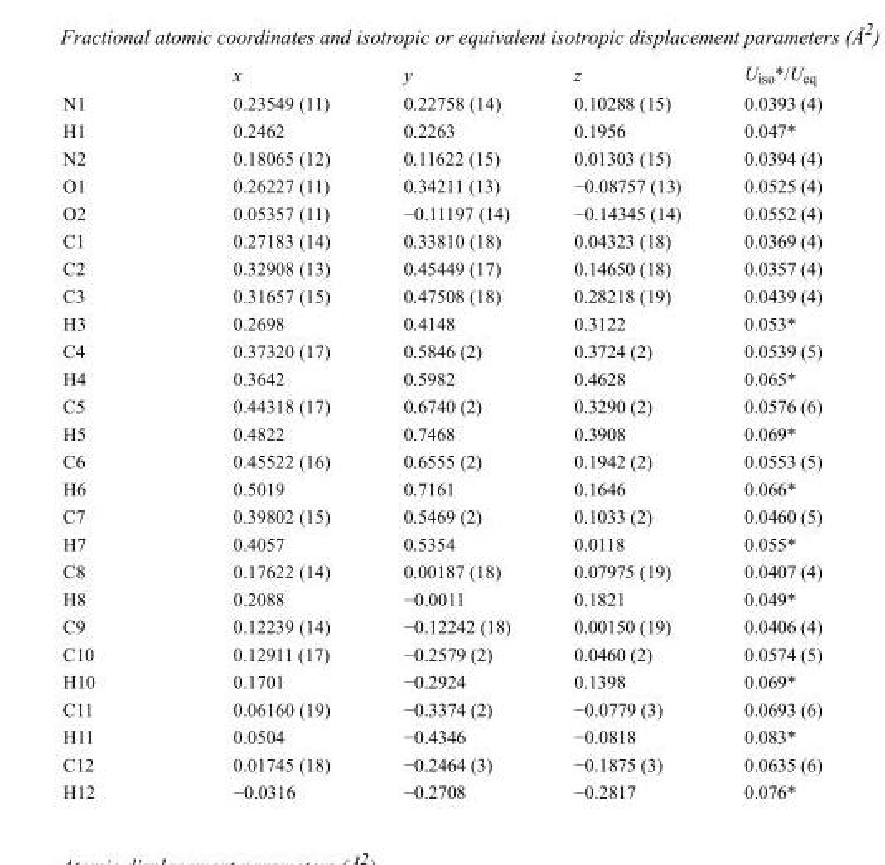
<table><thead><tr><td></td><td>x</td><td>y</td><td>z</td><td>U<sub>iso</sub>*/U<sub>eq</sub></td></tr></thead><tbody><tr><td>N1</td><td>0.23549 (11)</td><td>0.22758 (14)</td><td>0.10288 (15)</td><td>0.0393 (4)</td></tr><tr><td>H1</td><td>0.2462</td><td>0.2263</td><td>0.1956</td><td>0.047*</td></tr><tr><td>N2</td><td>0.18065 (12)</td><td>0.11622 (15)</td><td>0.01303 (15)</td><td>0.0394 (4)</td></tr><tr><td>O1</td><td>0.26227 (11)</td><td>0.34211 (13)</td><td>−0.08757 (13)</td><td>0.0525 (4)</td></tr><tr><td>O2</td><td>0.05357 (11)</td><td>−0.11197 (14)</td><td>−0.14345 (14)</td><td>0.0552 (4)</td></tr><tr><td>C1</td><td>0.27183 (14)</td><td>0.33810 (18)</td><td>0.04323 (18)</td><td>0.0369 (4)</td></tr><tr><td>C2</td><td>0.32908 (13)</td><td>0.45449 (17)</td><td>0.14650 (18)</td><td>0.0357 (4)</td></tr><tr><td>C3</td><td>0.31657 (15)</td><td>0.47508 (18)</td><td>0.28218 (19)</td><td>0.0439 (4)</td></tr><tr><td>H3</td><td>0.2698</td><td>0.4148</td><td>0.3122</td><td>0.053*</td></tr><tr><td>C4</td><td>0.37320 (17)</td><td>0.5846 (2)</td><td>0.3724 (2)</td><td>0.0539 (5)</td></tr><tr><td>H4</td><td>0.3642</td><td>0.5982</td><td>0.4628</td><td>0.065*</td></tr><tr><td>C5</td><td>0.44318 (17)</td><td>0.6740 (2)</td><td>0.3290 (2)</td><td>0.0576 (6)</td></tr><tr><td>H5</td><td>0.4822</td><td>0.7468</td><td>0.3908</td><td>0.069*</td></tr><tr><td>C6</td><td>0.45522 (16)</td><td>0.6555 (2)</td><td>0.1942 (2)</td><td>0.0553 (5)</td></tr><tr><td>H6</td><td>0.5019</td><td>0.7161</td><td>0.1646</td><td>0.066*</td></tr><tr><td>C7</td><td>0.39802 (15)</td><td>0.5469 (2)</td><td>0.1033 (2)</td><td>0.0460 (5)</td></tr><tr><td>H7</td><td>0.4057</td><td>0.5354</td><td>0.0118</td><td>0.055*</td></tr><tr><td>C8</td><td>0.17622 (14)</td><td>0.00187 (18)</td><td>0.07975 (19)</td><td>0.0407 (4)</td></tr><tr><td>H8</td><td>0.2088</td><td>−0.0011</td><td>0.1821</td><td>0.049*</td></tr><tr><td>C9</td><td>0.12239 (14)</td><td>−0.12242 (18)</td><td>0.00150 (19)</td><td>0.0406 (4)</td></tr><tr><td>C10</td><td>0.12911 (17)</td><td>−0.2579 (2)</td><td>0.0460 (2)</td><td>0.0574 (5)</td></tr><tr><td>H10</td><td>0.1701</td><td>−0.2924</td><td>0.1398</td><td>0.069*</td></tr><tr><td>C11</td><td>0.06160 (19)</td><td>−0.3374 (2)</td><td>−0.0779 (3)</td><td>0.0693 (6)</td></tr><tr><td>H11</td><td>0.0504</td><td>−0.4346</td><td>−0.0818</td><td>0.083*</td></tr><tr><td>C12</td><td>0.01745 (18)</td><td>−0.2464 (3)</td><td>−0.1875 (3)</td><td>0.0635 (6)</td></tr><tr><td>H12</td><td>−0.0316</td><td>−0.2708</td><td>−0.2817</td><td>0.076*</td></tr></tbody></table>